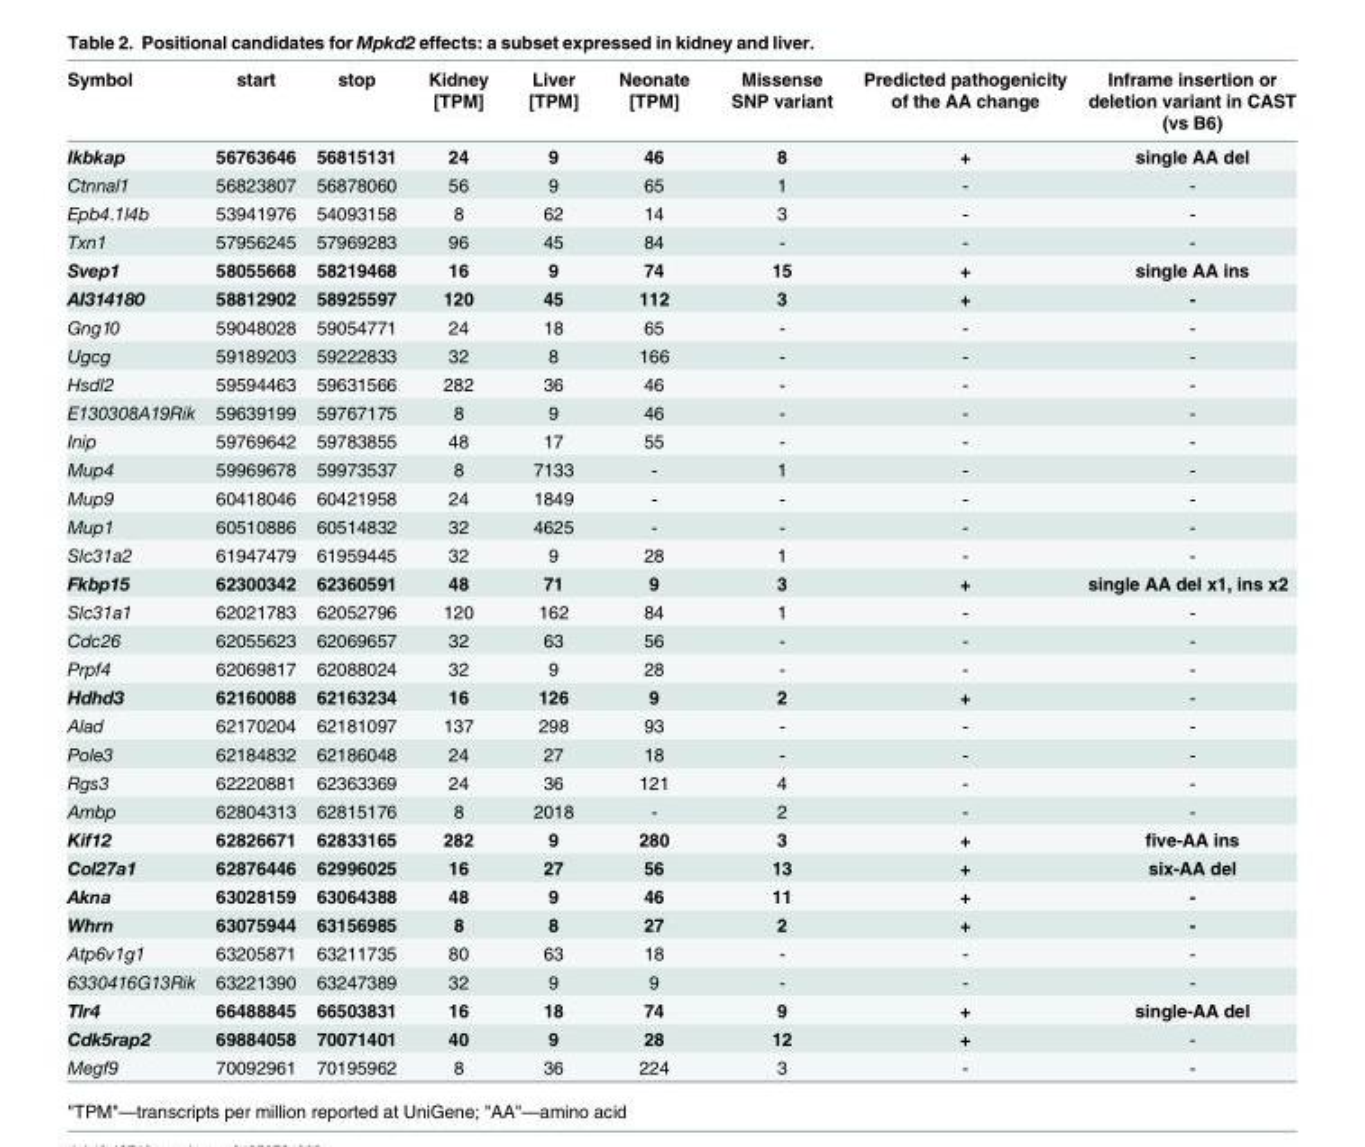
<table><thead><tr><td>Symbol</td><td>start</td><td>stop</td><td>Kidney [TPM]</td><td>Liver [TPM]</td><td>Neonate [TPM]</td><td>Missense SNP variant</td><td>Predicted pathogenicity of the AA change</td><td>Inframe insertion or deletion variant in CAST (vs B6)</td></tr></thead><tbody><tr><td>Ikbkap</td><td>56763646</td><td>56815131</td><td>24</td><td>9</td><td>46</td><td>8</td><td>+</td><td>single AA del</td></tr><tr><td>Ctnnal1</td><td>56823807</td><td>56878060</td><td>56</td><td>9</td><td>65</td><td>1</td><td>-</td><td>-</td></tr><tr><td>Epb4.1l4b</td><td>53941976</td><td>54093158</td><td>8</td><td>62</td><td>14</td><td>3</td><td>-</td><td>-</td></tr><tr><td>Txn1</td><td>57956245</td><td>57969283</td><td>96</td><td>45</td><td>84</td><td>-</td><td>-</td><td>-</td></tr><tr><td>Svep1</td><td>58055668</td><td>58219468</td><td>16</td><td>9</td><td>74</td><td>15</td><td>+</td><td>single AA ins</td></tr><tr><td>AI314180</td><td>58812902</td><td>58925597</td><td>120</td><td>45</td><td>112</td><td>3</td><td>+</td><td>-</td></tr><tr><td>Gng10</td><td>59048028</td><td>59054771</td><td>24</td><td>18</td><td>65</td><td>-</td><td>-</td><td>-</td></tr><tr><td>Ugcg</td><td>59189203</td><td>59222833</td><td>32</td><td>8</td><td>166</td><td>-</td><td>-</td><td>-</td></tr><tr><td>Hsdl2</td><td>59594463</td><td>59631566</td><td>282</td><td>36</td><td>46</td><td>-</td><td>-</td><td>-</td></tr><tr><td>E130308A19Rik</td><td>59639199</td><td>59767175</td><td>8</td><td>9</td><td>46</td><td>-</td><td>-</td><td>-</td></tr><tr><td>Inip</td><td>59769642</td><td>59783855</td><td>48</td><td>17</td><td>55</td><td>-</td><td>-</td><td>-</td></tr><tr><td>Mup4</td><td>59969678</td><td>59973537</td><td>8</td><td>7133</td><td>-</td><td>1</td><td>-</td><td>-</td></tr><tr><td>Mup9</td><td>60418046</td><td>60421958</td><td>24</td><td>1849</td><td>-</td><td>-</td><td>-</td><td>-</td></tr><tr><td>Mup1</td><td>60510886</td><td>60514832</td><td>32</td><td>4625</td><td>-</td><td>-</td><td>-</td><td>-</td></tr><tr><td>Slc31a2</td><td>61947479</td><td>61959445</td><td>32</td><td>9</td><td>28</td><td>1</td><td>-</td><td>-</td></tr><tr><td>Fkbp15</td><td>62300342</td><td>62360591</td><td>48</td><td>71</td><td>9</td><td>3</td><td>+</td><td>single AA del x1, ins x2</td></tr><tr><td>Slc31a1</td><td>62021783</td><td>62052796</td><td>120</td><td>162</td><td>84</td><td>1</td><td>-</td><td>-</td></tr><tr><td>Cdc26</td><td>62055623</td><td>62069657</td><td>32</td><td>63</td><td>56</td><td>-</td><td>-</td><td>-</td></tr><tr><td>Prpf4</td><td>62069817</td><td>62088024</td><td>32</td><td>9</td><td>28</td><td>-</td><td>-</td><td>-</td></tr><tr><td>Hdhd3</td><td>62160088</td><td>62163234</td><td>16</td><td>126</td><td>9</td><td>2</td><td>+</td><td>-</td></tr><tr><td>Alad</td><td>62170204</td><td>62181097</td><td>137</td><td>298</td><td>93</td><td>-</td><td>-</td><td>-</td></tr><tr><td>Pole3</td><td>62184832</td><td>62186048</td><td>24</td><td>27</td><td>18</td><td>-</td><td>-</td><td>-</td></tr><tr><td>Rgs3</td><td>62220881</td><td>62363369</td><td>24</td><td>36</td><td>121</td><td>4</td><td>-</td><td>-</td></tr><tr><td>Ambp</td><td>62804313</td><td>62815176</td><td>8</td><td>2018</td><td>-</td><td>2</td><td>-</td><td>-</td></tr><tr><td>Kif12</td><td>62826671</td><td>62833165</td><td>282</td><td>9</td><td>280</td><td>3</td><td>+</td><td>five-AA ins</td></tr><tr><td>Col27a1</td><td>62876446</td><td>62996025</td><td>16</td><td>27</td><td>56</td><td>13</td><td>+</td><td>six-AA del</td></tr><tr><td>Akna</td><td>63028159</td><td>63064388</td><td>48</td><td>9</td><td>46</td><td>11</td><td>+</td><td>-</td></tr><tr><td>Whrn</td><td>63075944</td><td>63156985</td><td>8</td><td>8</td><td>27</td><td>2</td><td>+</td><td>-</td></tr><tr><td>Atp6v1g1</td><td>63205871</td><td>63211735</td><td>80</td><td>63</td><td>18</td><td>-</td><td>-</td><td>-</td></tr><tr><td>6330416G13Rik</td><td>63221390</td><td>63247389</td><td>32</td><td>9</td><td>9</td><td>-</td><td>-</td><td>-</td></tr><tr><td>Tlr4</td><td>66488845</td><td>66503831</td><td>16</td><td>18</td><td>74</td><td>9</td><td>+</td><td>single-AA del</td></tr><tr><td>Cdk5rap2</td><td>69884058</td><td>70071401</td><td>40</td><td>9</td><td>28</td><td>12</td><td>+</td><td>-</td></tr><tr><td>Megf9</td><td>70092961</td><td>70195962</td><td>8</td><td>36</td><td>224</td><td>3</td><td>-</td><td>-</td></tr></tbody></table>